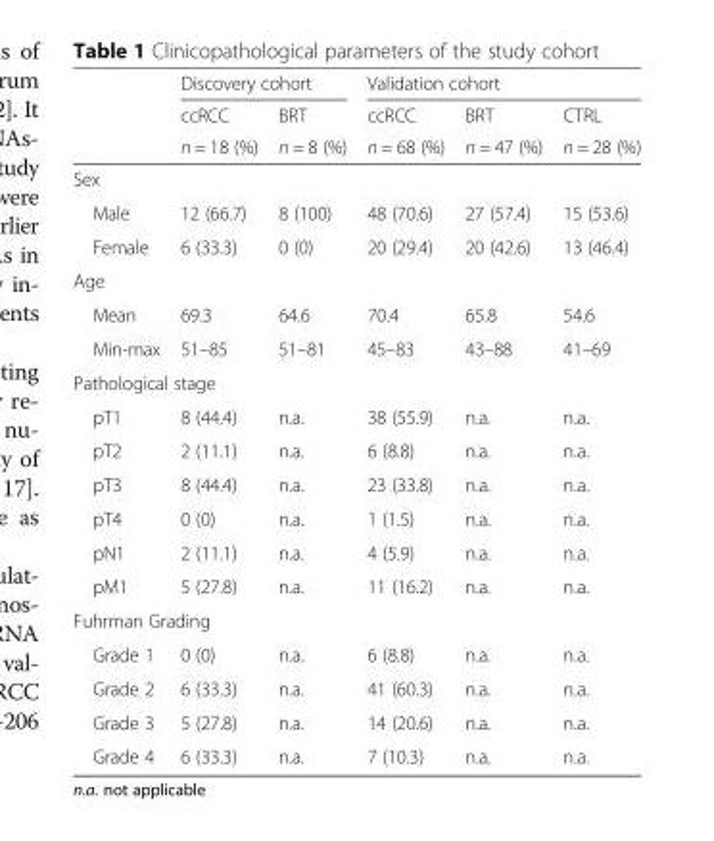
<table><thead><tr><td rowspan="3"></td><td colspan="2">Discovery cohort</td><td colspan="3">Validation cohort</td></tr><tr><td rowspan="2">ccRCC n = 18 (%)</td><td rowspan="2">BRT n = 8 (%)</td><td rowspan="2">ccRCC n = 68 (%)</td><td rowspan="2">BRT n = 47 (%)</td><td rowspan="2">CTRL n = 28 (%)</td></tr><tr></tr></thead><tbody><tr><td colspan="6">Sex</td></tr><tr><td>Male</td><td>12 (66.7)</td><td>8 (100)</td><td>48 (70.6)</td><td>27 (57.4)</td><td>15 (53.6)</td></tr><tr><td>Female</td><td>6 (33.3)</td><td>0 (0)</td><td>20 (29.4)</td><td>20 (42.6)</td><td>13 (46.4)</td></tr><tr><td colspan="6">Age</td></tr><tr><td>Mean</td><td>69.3</td><td>64.6</td><td>70.4</td><td>65.8</td><td>54.6</td></tr><tr><td>Min-max</td><td>51–85</td><td>51–81</td><td>45–83</td><td>43–88</td><td>41–69</td></tr><tr><td colspan="6">Pathological stage</td></tr><tr><td>pT1</td><td>8 (44.4)</td><td>n.a.</td><td>38 (55.9)</td><td>n.a.</td><td>n.a.</td></tr><tr><td>pT2</td><td>2 (11.1)</td><td>n.a.</td><td>6 (8.8)</td><td>n.a.</td><td>n.a.</td></tr><tr><td>pT3</td><td>8 (44.4)</td><td>n.a.</td><td>23 (33.8)</td><td>n.a.</td><td>n.a.</td></tr><tr><td>pT4</td><td>0 (0)</td><td>n.a.</td><td>1 (1.5)</td><td>n.a.</td><td>n.a.</td></tr><tr><td>pN1</td><td>2 (11.1)</td><td>n.a.</td><td>4 (5.9)</td><td>n.a.</td><td>n.a.</td></tr><tr><td>pM1</td><td>5 (27.8)</td><td>n.a.</td><td>11 (16.2)</td><td>n.a.</td><td>n.a.</td></tr><tr><td colspan="6">Fuhrman Grading</td></tr><tr><td>Grade 1</td><td>0 (0)</td><td>n.a.</td><td>6 (8.8)</td><td>n.a.</td><td>n.a.</td></tr><tr><td>Grade 2</td><td>6 (33.3)</td><td>n.a.</td><td>41 (60.3)</td><td>n.a.</td><td>n.a.</td></tr><tr><td>Grade 3</td><td>5 (27.8)</td><td>n.a.</td><td>14 (20.6)</td><td>n.a.</td><td>n.a.</td></tr><tr><td>Grade 4</td><td>6 (33.3)</td><td>n.a.</td><td>7 (10.3)</td><td>n.a.</td><td>n.a.</td></tr></tbody></table>